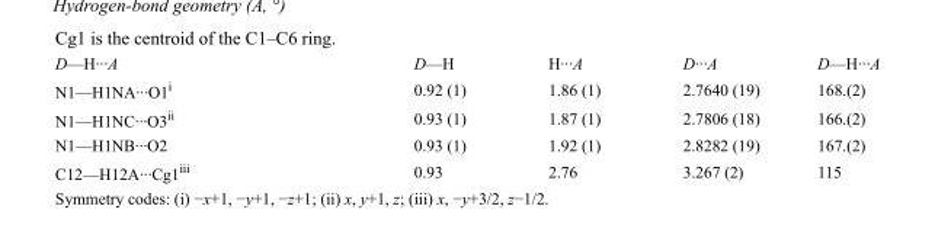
<table><tbody><tr><td>D—H···A</td><td>D—H</td><td>H···A</td><td>D···A</td><td>D—H···A</td></tr><tr><td>N1—H1NA···O1<sup>i</sup></td><td>0.92 (1)</td><td>1.86 (1)</td><td>2.7640 (19)</td><td>168.(2)</td></tr><tr><td>N1—H1NC···O3<sup>ii</sup></td><td>0.93 (1)</td><td>1.87 (1)</td><td>2.7806 (18)</td><td>166.(2)</td></tr><tr><td>N1—H1NB···O2</td><td>0.93 (1)</td><td>1.92 (1)</td><td>2.8282 (19)</td><td>167.(2)</td></tr><tr><td>C12—H12A···Cg1<sup>iii</sup></td><td>0.93</td><td>2.76</td><td>3.267 (2)</td><td>115</td></tr></tbody></table>